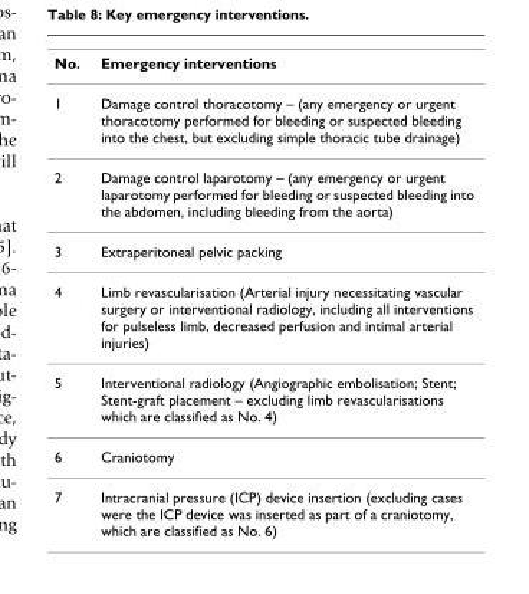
<table><tbody><tr><td>No.</td><td>Emergency interventions</td></tr><tr><td>1</td><td>Damage control thoracotomy – (any emergency or urgent thoracotomy performed for bleeding or suspected bleeding into the chest, but excluding simple thoracic tube drainage)</td></tr><tr><td>2</td><td>Damage control laparotomy – (any emergency or urgent laparotomy performed for bleeding or suspected bleeding into the abdomen, including bleeding from the aorta)</td></tr><tr><td>3</td><td>Extraperitoneal pelvic packing</td></tr><tr><td>4</td><td>Limb revascularisation (Arterial injury necessitating vascular surgery or interventional radiology, including all interventions for pulseless limb, decreased perfusion and intimal arterial injuries)</td></tr><tr><td>5</td><td>Interventional radiology (Angiographic embolisation; Stent; Stent-graft placement – excluding limb revascularisations which are classified as No. 4)</td></tr><tr><td>6</td><td>Craniotomy</td></tr><tr><td>7</td><td>Intracranial pressure (ICP) device insertion (excluding cases were the ICP device was inserted as part of a craniotomy, which are classified as No. 6)</td></tr></tbody></table>